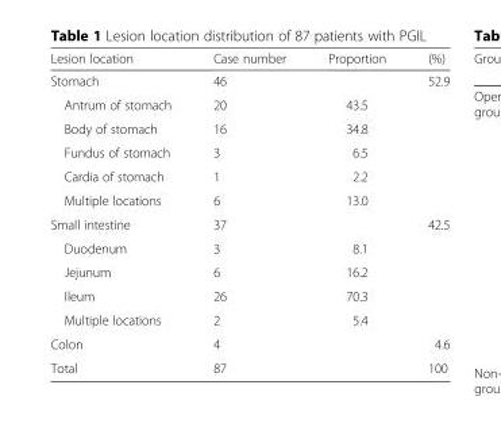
<table><thead><tr><td>Lesion location</td><td>Case number</td><td>Proportion</td><td>(%)</td></tr></thead><tbody><tr><td>Stomach</td><td>46</td><td></td><td>52.9</td></tr><tr><td>Antrum of stomach</td><td>20</td><td>43.5</td><td></td></tr><tr><td>Body of stomach</td><td>16</td><td>34.8</td><td></td></tr><tr><td>Fundus of stomach</td><td>3</td><td>6.5</td><td></td></tr><tr><td>Cardia of stomach</td><td>1</td><td>2.2</td><td></td></tr><tr><td>Multiple locations</td><td>6</td><td>13.0</td><td></td></tr><tr><td>Small intestine</td><td>37</td><td></td><td>42.5</td></tr><tr><td>Duodenum</td><td>3</td><td>8.1</td><td></td></tr><tr><td>Jejunum</td><td>6</td><td>16.2</td><td></td></tr><tr><td>Ileum</td><td>26</td><td>70.3</td><td></td></tr><tr><td>Multiple locations</td><td>2</td><td>5.4</td><td></td></tr><tr><td>Colon</td><td>4</td><td></td><td>4.6</td></tr><tr><td>Total</td><td>87</td><td></td><td>100</td></tr></tbody></table>